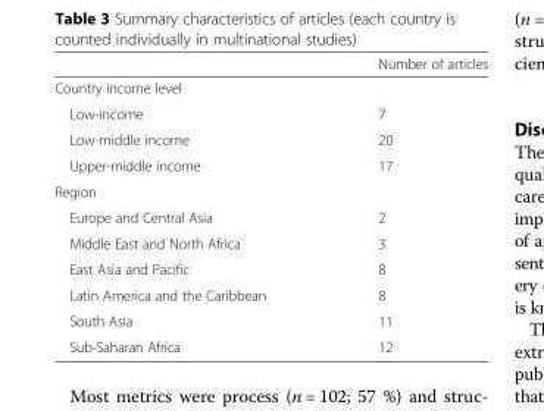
<table><thead><tr><td></td><td>Number of articles</td></tr></thead><tbody><tr><td colspan="2">Country income level</td></tr><tr><td>Low-income</td><td>7</td></tr><tr><td>Low-middle income</td><td>20</td></tr><tr><td>Upper-middle income</td><td>17</td></tr><tr><td colspan="2">Region</td></tr><tr><td>Europe and Central Asia</td><td>2</td></tr><tr><td>Middle East and North Africa</td><td>3</td></tr><tr><td>East Asia and Pacific</td><td>8</td></tr><tr><td>Latin America and the Caribbean</td><td>8</td></tr><tr><td>South Asia</td><td>11</td></tr><tr><td>Sub-Saharan Africa</td><td>12</td></tr></tbody></table>